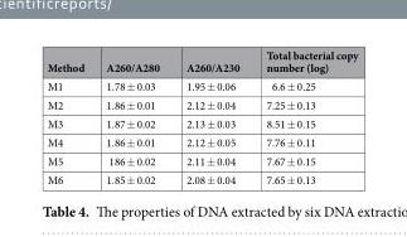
<table><thead><tr><td>Method</td><td>A260/A280</td><td>A260/A230</td><td>Total bacterial copy number (log)</td></tr></thead><tbody><tr><td>M1</td><td>1.78 ± 0.03</td><td>1.95 ± 0.06</td><td>6.6 ± 0.25</td></tr><tr><td>M2</td><td>1.86 ± 0.01</td><td>2.12 ± 0.04</td><td>7.25 ± 0.13</td></tr><tr><td>M3</td><td>1.87 ± 0.02</td><td>2.13 ± 0.03</td><td>8.51 ± 0.15</td></tr><tr><td>M4</td><td>1.86 ± 0.01</td><td>2.12 ± 0.05</td><td>7.76 ± 0.11</td></tr><tr><td>M5</td><td>186 ± 0.02</td><td>2.11 ± 0.04</td><td>7.67 ± 0.15</td></tr><tr><td>M6</td><td>1.85 ± 0.02</td><td>2.08 ± 0.04</td><td>7.65 ± 0.13</td></tr></tbody></table>